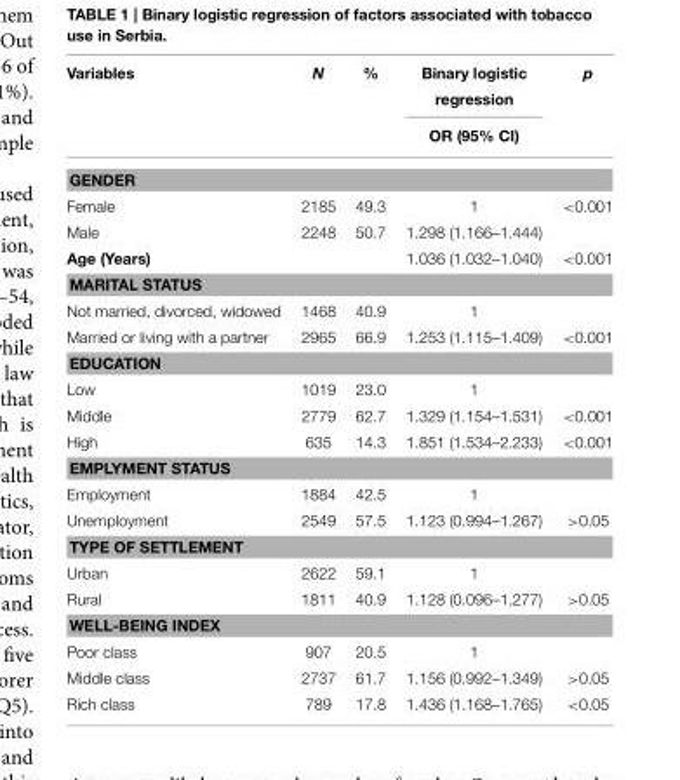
<table><thead><tr><td rowspan="2">Variables</td><td rowspan="2">N</td><td rowspan="2">%</td><td rowspan="2">Binary logistic regression OR (95% CI)</td><td rowspan="2">p</td></tr><tr></tr></thead><tbody><tr><td colspan="5">GENDER</td></tr><tr><td>Female</td><td>2185</td><td>49.3</td><td>1</td><td>&lt;0.001</td></tr><tr><td>Male</td><td>2248</td><td>50.7</td><td>1.298 (1.166–1.444)</td><td></td></tr><tr><td>Age (Years)</td><td></td><td></td><td>1.036 (1.032–1.040)</td><td>&lt;0.001</td></tr><tr><td colspan="5">MARITAL STATUS</td></tr><tr><td>Not married, divorced, widowed</td><td>1468</td><td>40.9</td><td>1</td><td></td></tr><tr><td>Married or living with a partner</td><td>2965</td><td>66.9</td><td>1.253 (1.115–1.409)</td><td>&lt;0.001</td></tr><tr><td colspan="5">EDUCATION</td></tr><tr><td>Low</td><td>1019</td><td>23.0</td><td>1</td><td></td></tr><tr><td>Middle</td><td>2779</td><td>62.7</td><td>1.329 (1.154–1.531)</td><td>&lt;0.001</td></tr><tr><td>High</td><td>635</td><td>14.3</td><td>1.851 (1.534–2.233)</td><td>&lt;0.001</td></tr><tr><td colspan="5">EMPLYMENT STATUS</td></tr><tr><td>Employment</td><td>1884</td><td>42.5</td><td>1</td><td></td></tr><tr><td>Unemployment</td><td>2549</td><td>57.5</td><td>1.123 (0.994–1.267)</td><td>&gt;0.05</td></tr><tr><td colspan="5">TYPE OF SETTLEMENT</td></tr><tr><td>Urban</td><td>2622</td><td>59.1</td><td>1</td><td></td></tr><tr><td>Rural</td><td>1811</td><td>40.9</td><td>1.128 (0.096–1.277)</td><td>&gt;0.05</td></tr><tr><td colspan="5">WELL-BEING INDEX</td></tr><tr><td>Poor class</td><td>907</td><td>20.5</td><td>1</td><td></td></tr><tr><td>Middle class</td><td>2737</td><td>61.7</td><td>1.156 (0.992–1.349)</td><td>&gt;0.05</td></tr><tr><td>Rich class</td><td>789</td><td>17.8</td><td>1.436 (1.168–1.765)</td><td>&lt;0.05</td></tr></tbody></table>